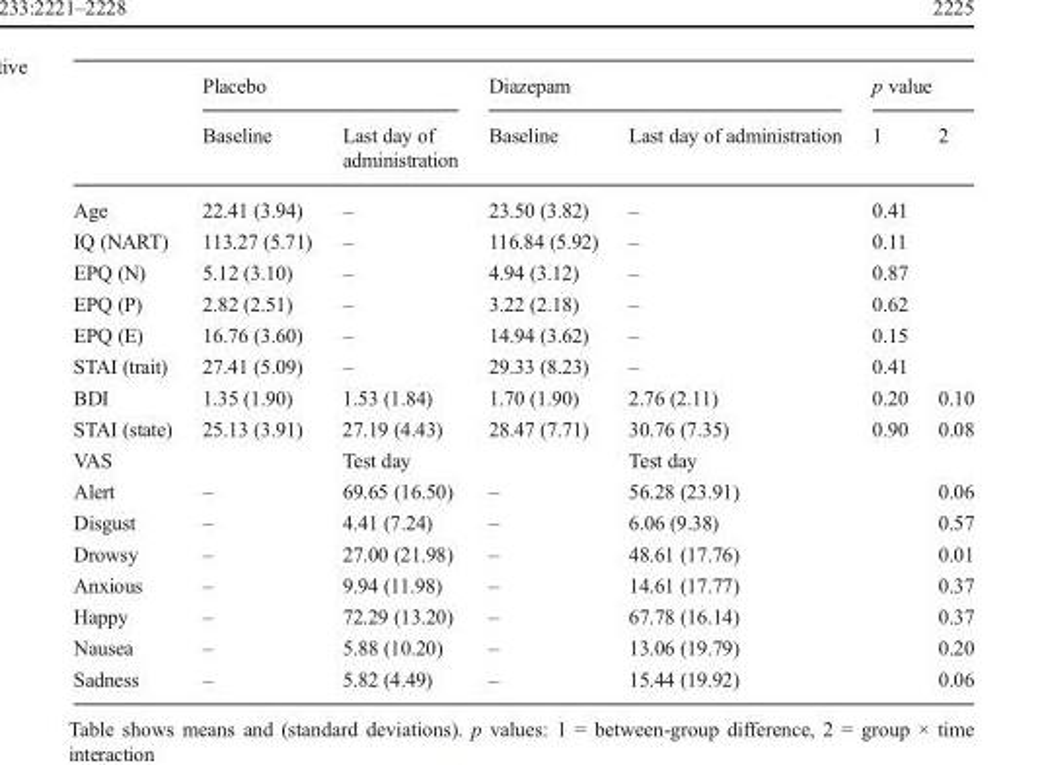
<table><thead><tr><td rowspan="2"></td><td colspan="2">Placebo</td><td colspan="2">Diazepam</td><td colspan="2">p value</td></tr><tr><td>Baseline</td><td>Last day of administration</td><td>Baseline</td><td>Last day of administration</td><td>1</td><td>2</td></tr></thead><tbody><tr><td>Age</td><td>22.41 (3.94)</td><td>–</td><td>23.50 (3.82)</td><td>–</td><td>0.41</td><td></td></tr><tr><td>IQ (NART)</td><td>113.27 (5.71)</td><td>–</td><td>116.84 (5.92)</td><td>–</td><td>0.11</td><td></td></tr><tr><td>EPQ (N)</td><td>5.12 (3.10)</td><td>–</td><td>4.94 (3.12)</td><td>–</td><td>0.87</td><td></td></tr><tr><td>EPQ (P)</td><td>2.82 (2.51)</td><td>–</td><td>3.22 (2.18)</td><td>–</td><td>0.62</td><td></td></tr><tr><td>EPQ (E)</td><td>16.76 (3.60)</td><td>–</td><td>14.94 (3.62)</td><td>–</td><td>0.15</td><td></td></tr><tr><td>STAI (trait)</td><td>27.41 (5.09)</td><td>–</td><td>29.33 (8.23)</td><td>–</td><td>0.41</td><td></td></tr><tr><td>BDI</td><td>1.35 (1.90)</td><td>1.53 (1.84)</td><td>1.70 (1.90)</td><td>2.76 (2.11)</td><td>0.20</td><td>0.10</td></tr><tr><td>STAI (state)</td><td>25.13 (3.91)</td><td>27.19 (4.43)</td><td>28.47 (7.71)</td><td>30.76 (7.35)</td><td>0.90</td><td>0.08</td></tr><tr><td>VAS</td><td></td><td>Test day</td><td></td><td>Test day</td><td></td><td></td></tr><tr><td>Alert</td><td>–</td><td>69.65 (16.50)</td><td>–</td><td>56.28 (23.91)</td><td></td><td>0.06</td></tr><tr><td>Disgust</td><td>–</td><td>4.41 (7.24)</td><td>–</td><td>6.06 (9.38)</td><td></td><td>0.57</td></tr><tr><td>Drowsy</td><td>–</td><td>27.00 (21.98)</td><td>–</td><td>48.61 (17.76)</td><td></td><td>0.01</td></tr><tr><td>Anxious</td><td>–</td><td>9.94 (11.98)</td><td>–</td><td>14.61 (17.77)</td><td></td><td>0.37</td></tr><tr><td>Happy</td><td>–</td><td>72.29 (13.20)</td><td>–</td><td>67.78 (16.14)</td><td></td><td>0.37</td></tr><tr><td>Nausea</td><td>–</td><td>5.88 (10.20)</td><td>–</td><td>13.06 (19.79)</td><td></td><td>0.20</td></tr><tr><td>Sadness</td><td>–</td><td>5.82 (4.49)</td><td>–</td><td>15.44 (19.92)</td><td></td><td>0.06</td></tr></tbody></table>